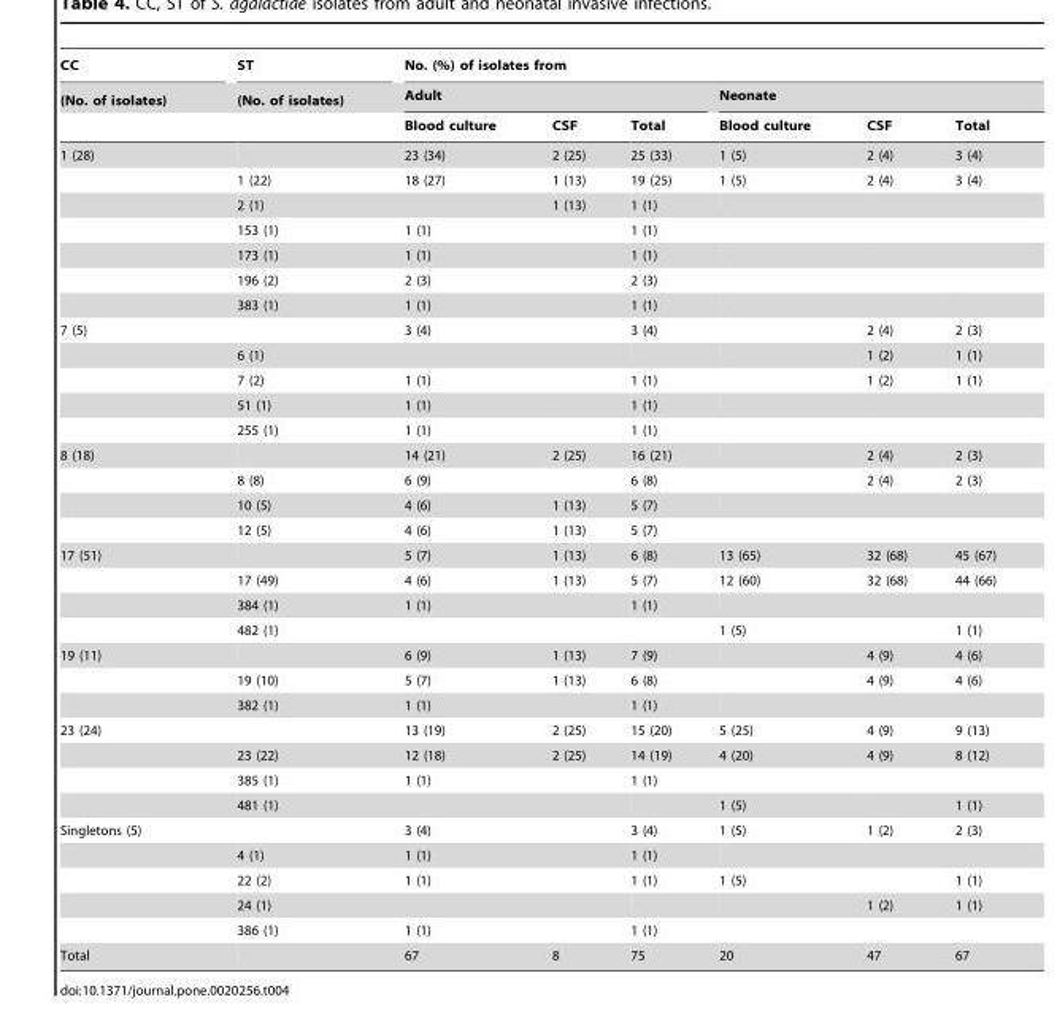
<table><thead><tr><td rowspan="3">CC (No. of isolates)</td><td rowspan="3">ST (No. of isolates)</td><td colspan="6">No. (%) of isolates from</td></tr><tr><td colspan="3">Adult</td><td colspan="3">Neonate</td></tr><tr><td>Blood culture</td><td>CSF</td><td>Total</td><td>Blood culture</td><td>CSF</td><td>Total</td></tr></thead><tbody><tr><td rowspan="7">1 (28)</td><td></td><td>23 (34)</td><td>2 (25)</td><td>25 (33)</td><td>1 (5)</td><td>2 (4)</td><td>3 (4)</td></tr><tr><td>1 (22)</td><td>18 (27)</td><td>1 (13)</td><td>19 (25)</td><td>1 (5)</td><td>2 (4)</td><td>3 (4)</td></tr><tr><td>2 (1)</td><td></td><td>1 (13)</td><td>1 (1)</td><td></td><td></td><td></td></tr><tr><td>153 (1)</td><td>1 (1)</td><td></td><td>1 (1)</td><td></td><td></td><td></td></tr><tr><td>173 (1)</td><td>1 (1)</td><td></td><td>1 (1)</td><td></td><td></td><td></td></tr><tr><td>196 (2)</td><td>2 (3)</td><td></td><td>2 (3)</td><td></td><td></td><td></td></tr><tr><td>383 (1)</td><td>1 (1)</td><td></td><td>1 (1)</td><td></td><td></td><td></td></tr><tr><td rowspan="5">7 (5)</td><td></td><td>3 (4)</td><td></td><td>3 (4)</td><td></td><td>2 (4)</td><td>2 (3)</td></tr><tr><td>6 (1)</td><td></td><td></td><td></td><td></td><td>1 (2)</td><td>1 (1)</td></tr><tr><td>7 (2)</td><td>1 (1)</td><td></td><td>1 (1)</td><td></td><td>1 (2)</td><td>1 (1)</td></tr><tr><td>51 (1)</td><td>1 (1)</td><td></td><td>1 (1)</td><td></td><td></td><td></td></tr><tr><td>255 (1)</td><td>1 (1)</td><td></td><td>1 (1)</td><td></td><td></td><td></td></tr><tr><td rowspan="4">8 (18)</td><td></td><td>14 (21)</td><td>2 (25)</td><td>16 (21)</td><td></td><td>2 (4)</td><td>2 (3)</td></tr><tr><td>8 (8)</td><td>6 (9)</td><td></td><td>6 (8)</td><td></td><td>2 (4)</td><td>2 (3)</td></tr><tr><td>10 (5)</td><td>4 (6)</td><td>1 (13)</td><td>5 (7)</td><td></td><td></td><td></td></tr><tr><td>12 (5)</td><td>4 (6)</td><td>1 (13)</td><td>5 (7)</td><td></td><td></td><td></td></tr><tr><td rowspan="4">17 (51)</td><td></td><td>5 (7)</td><td>1 (13)</td><td>6 (8)</td><td>13 (65)</td><td>32 (68)</td><td>45 (67)</td></tr><tr><td>17 (49)</td><td>4 (6)</td><td>1 (13)</td><td>5 (7)</td><td>12 (60)</td><td>32 (68)</td><td>44 (66)</td></tr><tr><td>384 (1)</td><td>1 (1)</td><td></td><td>1 (1)</td><td></td><td></td><td></td></tr><tr><td>482 (1)</td><td></td><td></td><td></td><td>1 (5)</td><td></td><td>1 (1)</td></tr><tr><td rowspan="3">19 (11)</td><td></td><td>6 (9)</td><td>1 (13)</td><td>7 (9)</td><td></td><td>4 (9)</td><td>4 (6)</td></tr><tr><td>19 (10)</td><td>5 (7)</td><td>1 (13)</td><td>6 (8)</td><td></td><td>4 (9)</td><td>4 (6)</td></tr><tr><td>382 (1)</td><td>1 (1)</td><td></td><td>1 (1)</td><td></td><td></td><td></td></tr><tr><td rowspan="4">23 (24)</td><td></td><td>13 (19)</td><td>2 (25)</td><td>15 (20)</td><td>5 (25)</td><td>4 (9)</td><td>9 (13)</td></tr><tr><td>23 (22)</td><td>12 (18)</td><td>2 (25)</td><td>14 (19)</td><td>4 (20)</td><td>4 (9)</td><td>8 (12)</td></tr><tr><td>385 (1)</td><td>1 (1)</td><td></td><td>1 (1)</td><td></td><td></td><td></td></tr><tr><td>481 (1)</td><td></td><td></td><td></td><td>1 (5)</td><td></td><td>1 (1)</td></tr><tr><td rowspan="5">Singletons (5)</td><td></td><td>3 (4)</td><td></td><td>3 (4)</td><td>1 (5)</td><td>1 (2)</td><td>2 (3)</td></tr><tr><td>4 (1)</td><td>1 (1)</td><td></td><td>1 (1)</td><td></td><td></td><td></td></tr><tr><td>22 (2)</td><td>1 (1)</td><td></td><td>1 (1)</td><td>1 (5)</td><td></td><td>1 (1)</td></tr><tr><td>24 (1)</td><td></td><td></td><td></td><td></td><td>1 (2)</td><td>1 (1)</td></tr><tr><td>386 (1)</td><td>1 (1)</td><td></td><td>1 (1)</td><td></td><td></td><td></td></tr><tr><td>Total</td><td></td><td>67</td><td>8</td><td>75</td><td>20</td><td>47</td><td>67</td></tr></tbody></table>